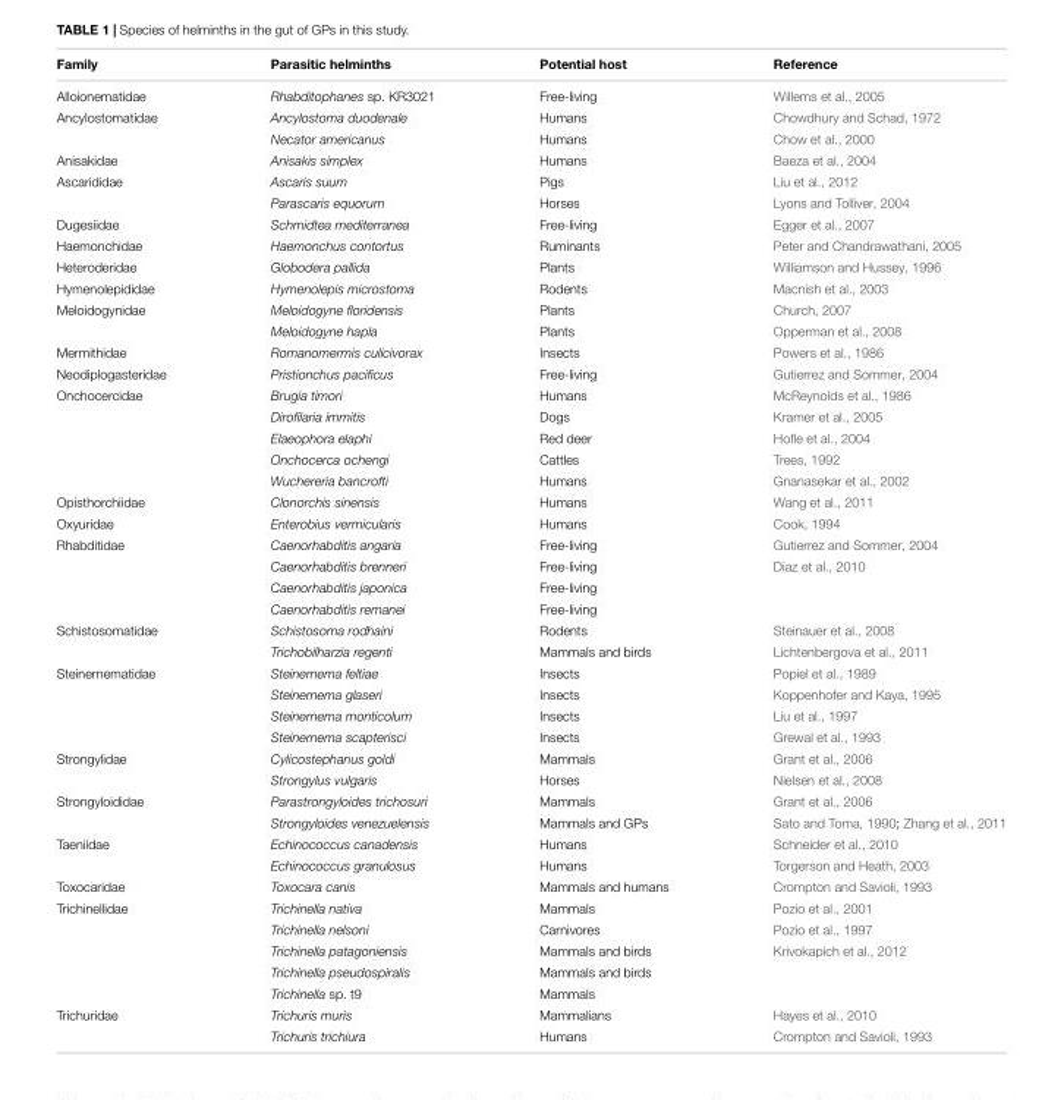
<table><thead><tr><td>Family</td><td>Parasitic helminths</td><td>Potential host</td><td>Reference</td></tr></thead><tbody><tr><td>Alloionematidae</td><td>Rhabditophanes sp. KR3021</td><td>Free-living</td><td>Willems et al., 2005</td></tr><tr><td rowspan="2">Ancylostomatidae</td><td>Ancylostoma duodenale</td><td>Humans</td><td>Chowdhury and Schad, 1972</td></tr><tr><td>Necator americanus</td><td>Humans</td><td>Chow et al., 2000</td></tr><tr><td>Anisakidae</td><td>Anisakis simplex</td><td>Humans</td><td>Baeza et al., 2004</td></tr><tr><td rowspan="2">Ascarididae</td><td>Ascaris suum</td><td>Pigs</td><td>Liu et al., 2012</td></tr><tr><td>Parascaris equorum</td><td>Horses</td><td>Lyons and Tolliver, 2004</td></tr><tr><td>Dugesiidae</td><td>Schmidtea mediterranea</td><td>Free-living</td><td>Egger et al., 2007</td></tr><tr><td>Haemonchidae</td><td>Haemonchus contortus</td><td>Ruminants</td><td>Peter and Chandrawathani, 2005</td></tr><tr><td>Heteroderidae</td><td>Globodera pallida</td><td>Plants</td><td>Williamson and Hussey, 1996</td></tr><tr><td>Hymenolepididae</td><td>Hymenolepis microstoma</td><td>Rodents</td><td>Macnish et al., 2003</td></tr><tr><td rowspan="2">Meloidogynidae</td><td>Meloidogyne floridensis</td><td>Plants</td><td>Church, 2007</td></tr><tr><td>Meloidogyne hapla</td><td>Plants</td><td>Opperman et al., 2008</td></tr><tr><td>Mermithidae</td><td>Romanomermis culicivorax</td><td>Insects</td><td>Powers et al., 1986</td></tr><tr><td>Neodiplogasteridae</td><td>Pristionchus pacificus</td><td>Free-living</td><td>Gutierrez and Sommer, 2004</td></tr><tr><td rowspan="5">Onchocercidae</td><td>Brugia timori</td><td>Humans</td><td>McReynolds et al., 1986</td></tr><tr><td>Dirofilaria immitis</td><td>Dogs</td><td>Kramer et al., 2005</td></tr><tr><td>Elaeophora elaphi</td><td>Red deer</td><td>Hofle et al., 2004</td></tr><tr><td>Onchocerca ochengi</td><td>Cattles</td><td>Trees, 1992</td></tr><tr><td>Wuchereria bancrofti</td><td>Humans</td><td>Gnanasekar et al., 2002</td></tr><tr><td>Opisthorchiidae</td><td>Clonorchis sinensis</td><td>Humans</td><td>Wang et al., 2011</td></tr><tr><td>Oxyuridae</td><td>Enterobius vermicularis</td><td>Humans</td><td>Cook, 1994</td></tr><tr><td rowspan="4">Rhabditidae</td><td>Caenorhabditis angaria</td><td>Free-living</td><td>Gutierrez and Sommer, 2004</td></tr><tr><td>Caenorhabditis brenneri</td><td>Free-living</td><td>Diaz et al., 2010</td></tr><tr><td>Caenorhabditis japonica</td><td>Free-living</td><td></td></tr><tr><td>Caenorhabditis remanei</td><td>Free-living</td><td></td></tr><tr><td rowspan="2">Schistosomatidae</td><td>Schistosoma rodhaini</td><td>Rodents</td><td>Steinauer et al., 2008</td></tr><tr><td>Trichobilharzia regenti</td><td>Mammals and birds</td><td>Lichtenbergova et al., 2011</td></tr><tr><td rowspan="4">Steinernematidae</td><td>Steinernema feltiae</td><td>Insects</td><td>Popiel et al., 1989</td></tr><tr><td>Steinernema glaseri</td><td>Insects</td><td>Koppenhofer and Kaya, 1995</td></tr><tr><td>Steinernema monticolum</td><td>Insects</td><td>Liu et al., 1997</td></tr><tr><td>Steinernema scapterisci</td><td>Insects</td><td>Grewal et al., 1993</td></tr><tr><td rowspan="2">Strongylidae</td><td>Cylicostephanus goldi</td><td>Mammals</td><td>Grant et al., 2006</td></tr><tr><td>Strongylus vulgaris</td><td>Horses</td><td>Nielsen et al., 2008</td></tr><tr><td rowspan="2">Strongyloididae</td><td>Parastrongyloides trichosuri</td><td>Mammals</td><td>Grant et al., 2006</td></tr><tr><td>Strongyloides venezuelensis</td><td>Mammals and GPs</td><td>Sato and Toma, 1990; Zhang et al., 2011</td></tr><tr><td rowspan="2">Taeniidae</td><td>Echinococcus canadensis</td><td>Humans</td><td>Schneider et al., 2010</td></tr><tr><td>Echinococcus granulosus</td><td>Humans</td><td>Torgerson and Heath, 2003</td></tr><tr><td>Toxocaridae</td><td>Toxocara canis</td><td>Mammals and humans</td><td>Crompton and Savioli, 1993</td></tr><tr><td rowspan="5">Trichinellidae</td><td>Trichinella nativa</td><td>Mammals</td><td>Pozio et al., 2001</td></tr><tr><td>Trichinella nelsoni</td><td>Carnivores</td><td>Pozio et al., 1997</td></tr><tr><td>Trichinella patagoniensis</td><td>Mammals and birds</td><td>Krivokapich et al., 2012</td></tr><tr><td>Trichinella pseudospiralis</td><td>Mammals and birds</td><td></td></tr><tr><td>Trichinella sp. t9</td><td>Mammals</td><td></td></tr><tr><td rowspan="2">Trichuridae</td><td>Trichuris muris</td><td>Mammalians</td><td>Hayes et al., 2010</td></tr><tr><td>Trichuris trichiura</td><td>Humans</td><td>Crompton and Savioli, 1993</td></tr></tbody></table>